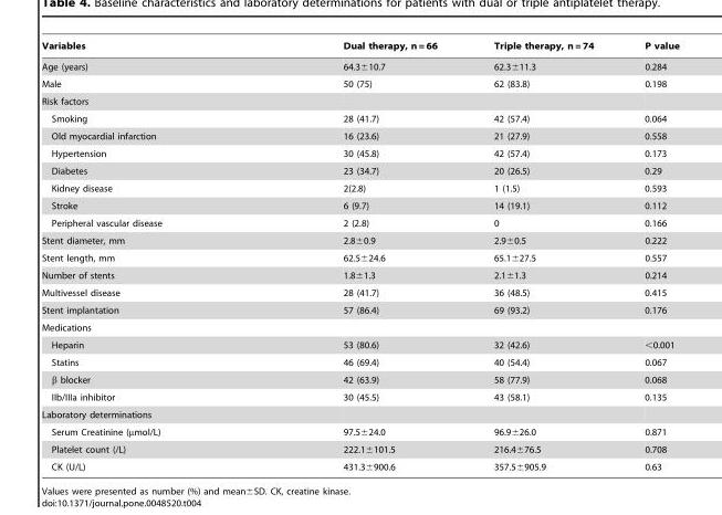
<table><thead><tr><td>Variables</td><td>Dual therapy, n = 66</td><td>Triple therapy, n = 74</td><td>P value</td></tr></thead><tbody><tr><td>Age (years)</td><td>64.3±10.7</td><td>62.3±11.3</td><td>0.284</td></tr><tr><td>Male</td><td>50 (75)</td><td>62 (83.8)</td><td>0.198</td></tr><tr><td colspan="4">Risk factors</td></tr><tr><td>Smoking</td><td>28 (41.7)</td><td>42 (57.4)</td><td>0.064</td></tr><tr><td>Old myocardial infarction</td><td>16 (23.6)</td><td>21 (27.9)</td><td>0.558</td></tr><tr><td>Hypertension</td><td>30 (45.8)</td><td>42 (57.4)</td><td>0.173</td></tr><tr><td>Diabetes</td><td>23 (34.7)</td><td>20 (26.5)</td><td>0.29</td></tr><tr><td>Kidney disease</td><td>2(2.8)</td><td>1 (1.5)</td><td>0.593</td></tr><tr><td>Stroke</td><td>6 (9.7)</td><td>14 (19.1)</td><td>0.112</td></tr><tr><td>Peripheral vascular disease</td><td>2 (2.8)</td><td>0</td><td>0.166</td></tr><tr><td>Stent diameter, mm</td><td>2.8±0.9</td><td>2.9±0.5</td><td>0.222</td></tr><tr><td>Stent length, mm</td><td>62.5±24.6</td><td>65.1±27.5</td><td>0.557</td></tr><tr><td>Number of stents</td><td>1.8±1.3</td><td>2.1±1.3</td><td>0.214</td></tr><tr><td>Multivessel disease</td><td>28 (41.7)</td><td>36 (48.5)</td><td>0.415</td></tr><tr><td>Stent implantation</td><td>57 (86.4)</td><td>69 (93.2)</td><td>0.176</td></tr><tr><td colspan="4">Medications</td></tr><tr><td>Heparin</td><td>53 (80.6)</td><td>32 (42.6)</td><td>&lt;0.001</td></tr><tr><td>Statins</td><td>46 (69.4)</td><td>40 (54.4)</td><td>0.067</td></tr><tr><td>β blocker</td><td>42 (63.9)</td><td>58 (77.9)</td><td>0.068</td></tr><tr><td>IIb/IIIa inhibitor</td><td>30 (45.5)</td><td>43 (58.1)</td><td>0.135</td></tr><tr><td colspan="4">Laboratory determinations</td></tr><tr><td>Serum Creatinine (µmol/L)</td><td>97.5±24.0</td><td>96.9±26.0</td><td>0.871</td></tr><tr><td>Platelet count (/L)</td><td>222.1±101.5</td><td>216.4±76.5</td><td>0.708</td></tr><tr><td>CK (U/L)</td><td>431.3±900.6</td><td>357.5±905.9</td><td>0.63</td></tr></tbody></table>